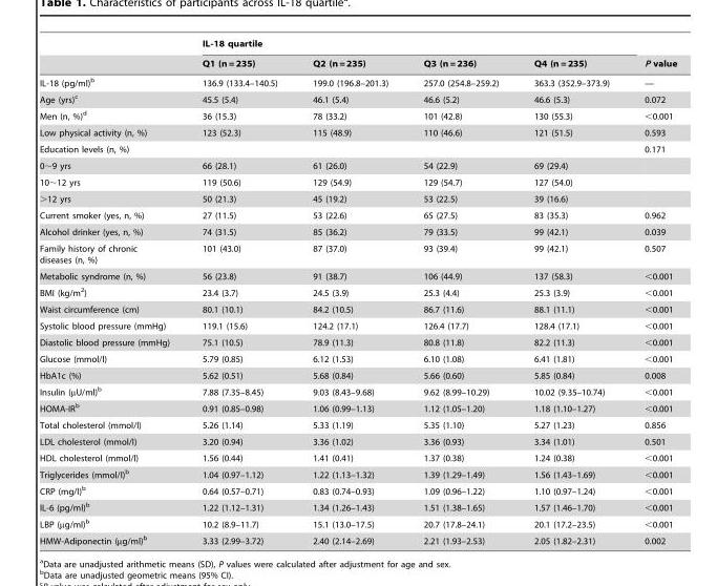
<table><thead><tr><td rowspan="2"></td><td colspan="4">IL-18 quartile</td><td rowspan="2">P value</td></tr><tr><td>Q1 (n = 235)</td><td>Q2 (n = 235)</td><td>Q3 (n = 236)</td><td>Q4 (n = 235)</td></tr></thead><tbody><tr><td>IL-18 (pg/ml)<sup>b</sup></td><td>136.9 (133.4–140.5)</td><td>199.0 (196.8–201.3)</td><td>257.0 (254.8–259.2)</td><td>363.3 (352.9–373.9)</td><td>—</td></tr><tr><td>Age (yrs)<sup>c</sup></td><td>45.5 (5.4)</td><td>46.1 (5.4)</td><td>46.6 (5.2)</td><td>46.6 (5.3)</td><td>0.072</td></tr><tr><td>Men (n, %)<sup>d</sup></td><td>36 (15.3)</td><td>78 (33.2)</td><td>101 (42.8)</td><td>130 (55.3)</td><td>&lt;0.001</td></tr><tr><td>Low physical activity (n, %)</td><td>123 (52.3)</td><td>115 (48.9)</td><td>110 (46.6)</td><td>121 (51.5)</td><td>0.593</td></tr><tr><td>Education levels (n, %)</td><td></td><td></td><td></td><td></td><td>0.171</td></tr><tr><td>0∼9 yrs</td><td>66 (28.1)</td><td>61 (26.0)</td><td>54 (22.9)</td><td>69 (29.4)</td><td></td></tr><tr><td>10∼12 yrs</td><td>119 (50.6)</td><td>129 (54.9)</td><td>129 (54.7)</td><td>127 (54.0)</td><td></td></tr><tr><td>&gt;12 yrs</td><td>50 (21.3)</td><td>45 (19.2)</td><td>53 (22.5)</td><td>39 (16.6)</td><td></td></tr><tr><td>Current smoker (yes, n, %)</td><td>27 (11.5)</td><td>53 (22.6)</td><td>65 (27.5)</td><td>83 (35.3)</td><td>0.962</td></tr><tr><td>Alcohol drinker (yes, n, %)</td><td>74 (31.5)</td><td>85 (36.2)</td><td>79 (33.5)</td><td>99 (42.1)</td><td>0.039</td></tr><tr><td>Family history of chronic diseases (n, %)</td><td>101 (43.0)</td><td>87 (37.0)</td><td>93 (39.4)</td><td>99 (42.1)</td><td>0.507</td></tr><tr><td>Metabolic syndrome (n, %)</td><td>56 (23.8)</td><td>91 (38.7)</td><td>106 (44.9)</td><td>137 (58.3)</td><td>&lt;0.001</td></tr><tr><td>BMI (kg/m<sup>2</sup>)</td><td>23.4 (3.7)</td><td>24.5 (3.9)</td><td>25.3 (4.4)</td><td>25.3 (3.9)</td><td>&lt;0.001</td></tr><tr><td>Waist circumference (cm)</td><td>80.1 (10.1)</td><td>84.2 (10.5)</td><td>86.7 (11.6)</td><td>88.1 (11.1)</td><td>&lt;0.001</td></tr><tr><td>Systolic blood pressure (mmHg)</td><td>119.1 (15.6)</td><td>124.2 (17.1)</td><td>126.4 (17.7)</td><td>128.4 (17.1)</td><td>&lt;0.001</td></tr><tr><td>Diastolic blood pressure (mmHg)</td><td>75.1 (10.5)</td><td>78.9 (11.3)</td><td>80.8 (11.8)</td><td>82.2 (11.3)</td><td>&lt;0.001</td></tr><tr><td>Glucose (mmol/l)</td><td>5.79 (0.85)</td><td>6.12 (1.53)</td><td>6.10 (1.08)</td><td>6.41 (1.81)</td><td>&lt;0.001</td></tr><tr><td>HbA1c (%)</td><td>5.62 (0.51)</td><td>5.68 (0.84)</td><td>5.66 (0.60)</td><td>5.85 (0.84)</td><td>0.008</td></tr><tr><td>Insulin (µU/ml)<sup>b</sup></td><td>7.88 (7.35–8.45)</td><td>9.03 (8.43–9.68)</td><td>9.62 (8.99–10.29)</td><td>10.02 (9.35–10.74)</td><td>&lt;0.001</td></tr><tr><td>HOMA-IR<sup>b</sup></td><td>0.91 (0.85–0.98)</td><td>1.06 (0.99–1.13)</td><td>1.12 (1.05–1.20)</td><td>1.18 (1.10–1.27)</td><td>&lt;0.001</td></tr><tr><td>Total cholesterol (mmol/l)</td><td>5.26 (1.14)</td><td>5.33 (1.19)</td><td>5.35 (1.10)</td><td>5.27 (1.23)</td><td>0.856</td></tr><tr><td>LDL cholesterol (mmol/l)</td><td>3.20 (0.94)</td><td>3.36 (1.02)</td><td>3.36 (0.93)</td><td>3.34 (1.01)</td><td>0.501</td></tr><tr><td>HDL cholesterol (mmol/l)</td><td>1.56 (0.44)</td><td>1.41 (0.41)</td><td>1.37 (0.38)</td><td>1.24 (0.38)</td><td>&lt;0.001</td></tr><tr><td>Triglycerides (mmol/l)<sup>b</sup></td><td>1.04 (0.97–1.12)</td><td>1.22 (1.13–1.32)</td><td>1.39 (1.29–1.49)</td><td>1.56 (1.43–1.69)</td><td>&lt;0.001</td></tr><tr><td>CRP (mg/l)<sup>b</sup></td><td>0.64 (0.57–0.71)</td><td>0.83 (0.74–0.93)</td><td>1.09 (0.96–1.22)</td><td>1.10 (0.97–1.24)</td><td>&lt;0.001</td></tr><tr><td>IL-6 (pg/ml)<sup>b</sup></td><td>1.22 (1.12–1.31)</td><td>1.34 (1.26–1.43)</td><td>1.51 (1.38–1.65)</td><td>1.57 (1.46–1.70)</td><td>&lt;0.001</td></tr><tr><td>LBP (µg/ml)<sup>b</sup></td><td>10.2 (8.9–11.7)</td><td>15.1 (13.0–17.5)</td><td>20.7 (17.8–24.1)</td><td>20.1 (17.2–23.5)</td><td>&lt;0.001</td></tr><tr><td>HMW-Adiponectin (µg/ml)<sup>b</sup></td><td>3.33 (2.99–3.72)</td><td>2.40 (2.14–2.69)</td><td>2.21 (1.93–2.53)</td><td>2.05 (1.82–2.31)</td><td>0.002</td></tr></tbody></table>